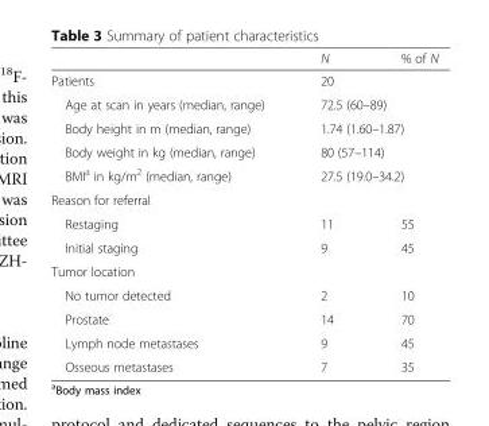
<table><thead><tr><td></td><td>N</td><td>% of N</td></tr></thead><tbody><tr><td>Patients</td><td>20</td><td></td></tr><tr><td>Age at scan in years (median, range)</td><td colspan="2">72.5 (60–89)</td></tr><tr><td>Body height in m (median, range)</td><td colspan="2">1.74 (1.60–1.87)</td></tr><tr><td>Body weight in kg (median, range)</td><td colspan="2">80 (57–114)</td></tr><tr><td>BMI<sup>a</sup> in kg/m<sup>2</sup> (median, range)</td><td colspan="2">27.5 (19.0–34.2)</td></tr><tr><td colspan="3">Reason for referral</td></tr><tr><td>Restaging</td><td>11</td><td>55</td></tr><tr><td>Initial staging</td><td>9</td><td>45</td></tr><tr><td colspan="3">Tumor location</td></tr><tr><td>No tumor detected</td><td>2</td><td>10</td></tr><tr><td>Prostate</td><td>14</td><td>70</td></tr><tr><td>Lymph node metastases</td><td>9</td><td>45</td></tr><tr><td>Osseous metastases</td><td>7</td><td>35</td></tr></tbody></table>